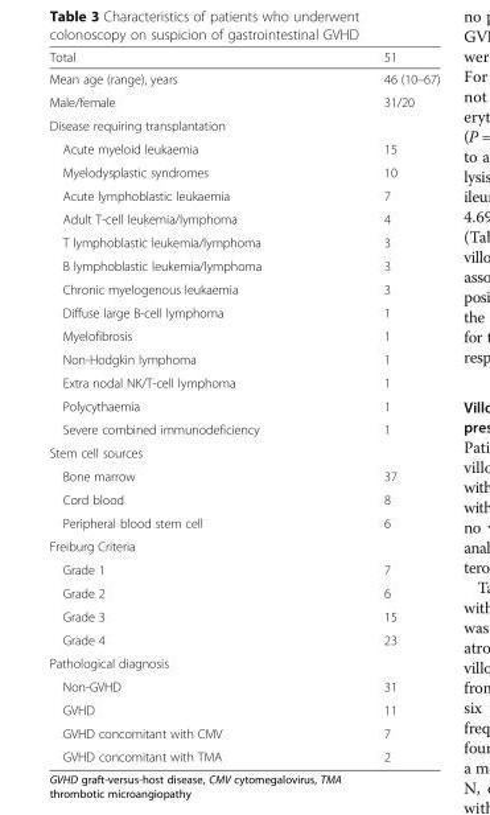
<table><thead><tr><td>Total</td><td>51</td></tr></thead><tbody><tr><td>Mean age (range), years</td><td>46 (10–67)</td></tr><tr><td>Male/female</td><td>31/20</td></tr><tr><td colspan="2">Disease requiring transplantation</td></tr><tr><td>Acute myeloid leukaemia</td><td>15</td></tr><tr><td>Myelodysplastic syndromes</td><td>10</td></tr><tr><td>Acute lymphoblastic leukaemia</td><td>7</td></tr><tr><td>Adult T-cell leukemia/lymphoma</td><td>4</td></tr><tr><td>T lymphoblastic leukemia/lymphoma</td><td>3</td></tr><tr><td>B lymphoblastic leukemia/lymphoma</td><td>3</td></tr><tr><td>Chronic myelogenous leukaemia</td><td>3</td></tr><tr><td>Diffuse large B-cell lymphoma</td><td>1</td></tr><tr><td>Myelofibrosis</td><td>1</td></tr><tr><td>Non-Hodgkin lymphoma</td><td>1</td></tr><tr><td>Extra nodal NK/T-cell lymphoma</td><td>1</td></tr><tr><td>Polycythaemia</td><td>1</td></tr><tr><td>Severe combined immunodeficiency</td><td>1</td></tr><tr><td colspan="2">Stem cell sources</td></tr><tr><td>Bone marrow</td><td>37</td></tr><tr><td>Cord blood</td><td>8</td></tr><tr><td>Peripheral blood stem cell</td><td>6</td></tr><tr><td colspan="2">Freiburg Criteria</td></tr><tr><td>Grade 1</td><td>7</td></tr><tr><td>Grade 2</td><td>6</td></tr><tr><td>Grade 3</td><td>15</td></tr><tr><td>Grade 4</td><td>23</td></tr><tr><td colspan="2">Pathological diagnosis</td></tr><tr><td>Non-GVHD</td><td>31</td></tr><tr><td>GVHD</td><td>11</td></tr><tr><td>GVHD concomitant with CMV</td><td>7</td></tr><tr><td>GVHD concomitant with TMA</td><td>2</td></tr></tbody></table>